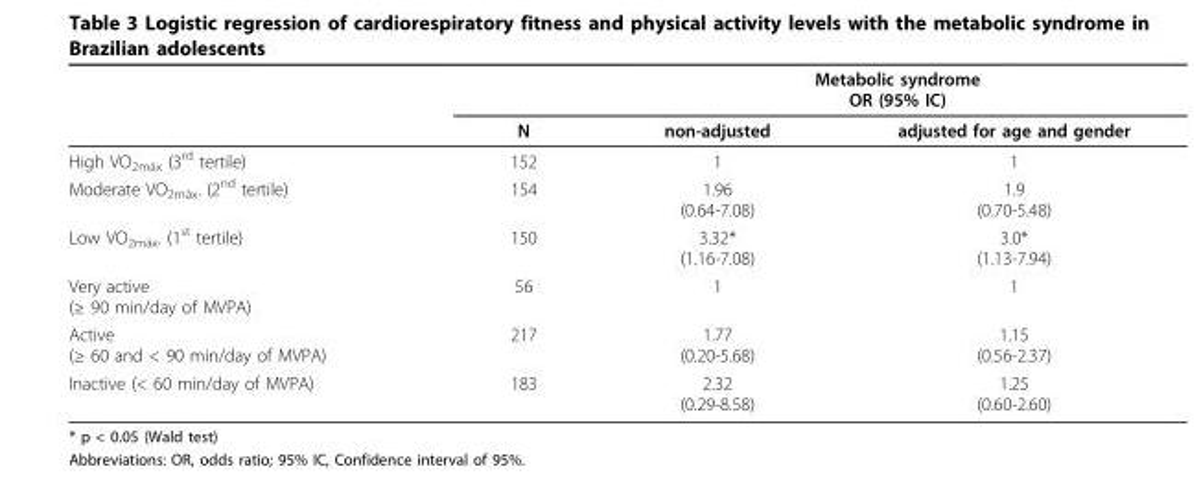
<table><thead><tr><td rowspan="2"></td><td rowspan="2">N</td><td colspan="2">Metabolic syndrome OR (95% IC)</td></tr><tr><td>non-adjusted</td><td>adjusted for age and gender</td></tr></thead><tbody><tr><td>High VO<sub>2máx</sub> (3<sup>rd</sup> tertile)</td><td>152</td><td>1</td><td>1</td></tr><tr><td>Moderate VO<sub>2máx</sub>. (2<sup>nd</sup> tertile)</td><td>154</td><td>1.96 (0.64-7.08)</td><td>1.9 (0.70-5.48)</td></tr><tr><td>Low VO<sub>2máx</sub>. (1<sup>st</sup> tertile)</td><td>150</td><td>3.32* (1.16-7.08)</td><td>3.0* (1.13-7.94)</td></tr><tr><td>Very active (≥ 90 min/day of MVPA)</td><td>56</td><td>1</td><td>1</td></tr><tr><td>Active (≥ 60 and &lt; 90 min/day of MVPA)</td><td>217</td><td>1.77 (0.20-5.68)</td><td>1.15 (0.56-2.37)</td></tr><tr><td>Inactive (&lt; 60 min/day of MVPA)</td><td>183</td><td>2.32 (0.29-8.58)</td><td>1.25 (0.60-2.60)</td></tr></tbody></table>